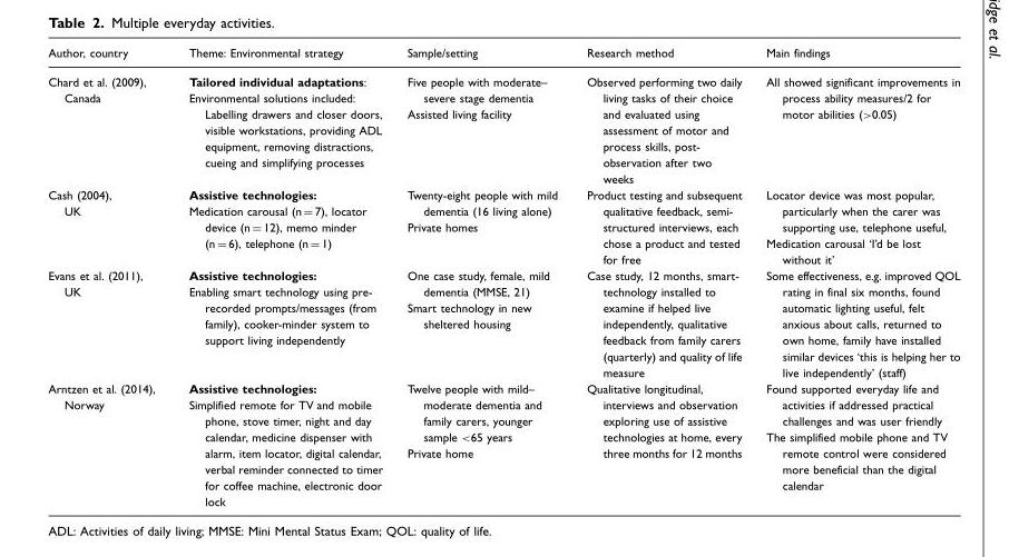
<table><thead><tr><td>Author, country</td><td>Theme: Environmental strategy</td><td>Sample/setting</td><td>Research method</td><td>Main findings</td></tr></thead><tbody><tr><td>Chard et al. (2009), Canada</td><td>Tailored individual adaptations: Environmental solutions included: Labelling drawers and closer doors, visible workstations, providing ADL equipment, removing distractions, cueing and simplifying processes</td><td>Five people with moderate– severe stage dementia Assisted living facility</td><td>Observed performing two daily living tasks of their choice and evaluated using assessment of motor and process skills, post- observation after two weeks</td><td>All showed significant improvements in process ability measures/2 for motor abilities (&gt;0.05)</td></tr><tr><td>Cash (2004), UK</td><td>Assistive technologies: Medication carousal (n = 7), locator device (n = 12), memo minder (n = 6), telephone (n = 1)</td><td>Twenty-eight people with mild dementia (16 living alone) Private homes</td><td>Product testing and subsequent qualitative feedback, semi- structured interviews, each chose a product and tested for free</td><td>Locator device was most popular, particularly when the carer was supporting use, telephone useful, Medication carousal ‘I’d be lost without it’</td></tr><tr><td>Evans et al. (2011), UK</td><td>Assistive technologies: Enabling smart technology using pre- recorded prompts/messages (from family), cooker-minder system to support living independently</td><td>One case study, female, mild dementia (MMSE, 21) Smart technology in new sheltered housing</td><td>Case study, 12 months, smart- technology installed to examine if helped live independently, qualitative feedback from family carers (quarterly) and quality of life measure</td><td>Some effectiveness, e.g. improved QOL rating in final six months, found automatic lighting useful, felt anxious about calls, returned to own home, family have installed similar devices ‘this is helping her to live independently’ (staff)</td></tr><tr><td>Arntzen et al. (2014), Norway</td><td>Assistive technologies: Simplified remote for TV and mobile phone, stove timer, night and day calendar, medicine dispenser with alarm, item locator, digital calendar, verbal reminder connected to timer for coffee machine, electronic door lock</td><td>Twelve people with mild– moderate dementia and family carers, younger sample &lt;65 years Private home</td><td>Qualitative longitudinal, interviews and observation exploring use of assistive technologies at home, every three months for 12 months</td><td>Found supported everyday life and activities if addressed practical challenges and was user friendly The simplified mobile phone and TV remote control were considered more beneficial than the digital calendar</td></tr></tbody></table>